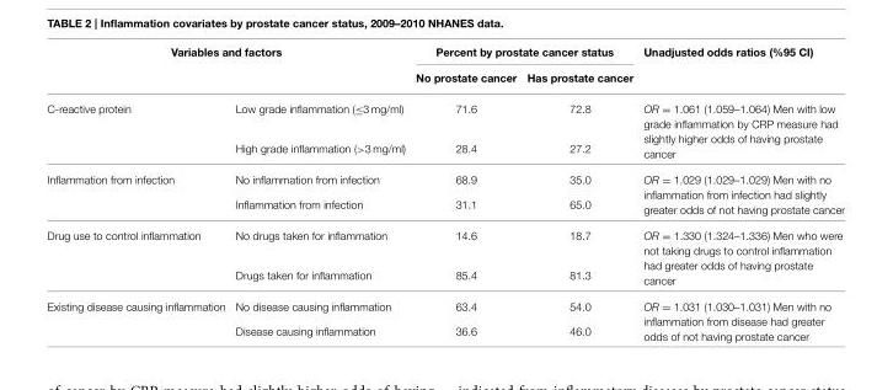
<table><thead><tr><td colspan="2">Variables and factors</td><td colspan="2">Percent by prostate cancer status</td><td rowspan="2">Unadjusted odds ratios (%95 CI)</td></tr><tr><td></td><td></td><td>No prostate cancer</td><td>Has prostate cancer</td></tr></thead><tbody><tr><td rowspan="2">C-reactive protein</td><td>Low grade inflammation (≤3 mg/ml)</td><td>71.6</td><td>72.8</td><td rowspan="2">OR = 1.061 (1.059–1.064) Men with low grade inflammation by CRP measure had slightly higher odds of having prostate cancer</td></tr><tr><td>High grade inflammation (&gt;3 mg/ml)</td><td>28.4</td><td>27.2</td></tr><tr><td rowspan="2">Inflammation from infection</td><td>No inflammation from infection</td><td>68.9</td><td>35.0</td><td rowspan="2">OR = 1.029 (1.029–1.029) Men with no inflammation from infection had slightly greater odds of not having prostate cancer</td></tr><tr><td>Inflammation from infection</td><td>31.1</td><td>65.0</td></tr><tr><td rowspan="2">Drug use to control inflammation</td><td>No drugs taken for inflammation</td><td>14.6</td><td>18.7</td><td rowspan="2">OR = 1.330 (1.324–1.336) Men who were not taking drugs to control inflammation had greater odds of having prostate cancer</td></tr><tr><td>Drugs taken for inflammation</td><td>85.4</td><td>81.3</td></tr><tr><td rowspan="2">Existing disease causing inflammation</td><td>No disease causing inflammation</td><td>63.4</td><td>54.0</td><td rowspan="2">OR = 1.031 (1.030–1.031) Men with no inflammation from disease had greater odds of not having prostate cancer</td></tr><tr><td>Disease causing inflammation</td><td>36.6</td><td>46.0</td></tr></tbody></table>